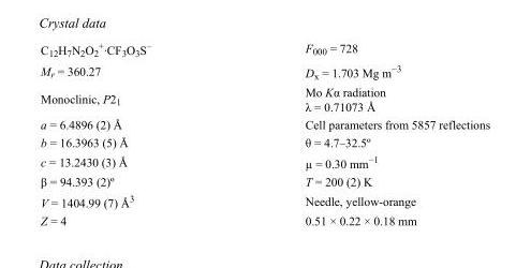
<table><tbody><tr><td>C<sub>12</sub>H<sub>7</sub>N<sub>2</sub>O<sub>2</sub> <sup>+</sup>·CF<sub>3</sub>O<sub>3</sub>S<sup>–</sup></td><td>F<sub>000</sub> = 728</td></tr><tr><td>M<sub>r</sub> = 360.27</td><td>D<sub>x</sub> = 1.703 Mg m<sup>−3</sup></td></tr><tr><td>Monoclinic, P2<sub>1</sub></td><td>Mo Kα radiation λ = 0.71073 Å</td></tr><tr><td>a = 6.4896 (2) Å</td><td>Cell parameters from 5857 reflections</td></tr><tr><td>b = 16.3963 (5) Å</td><td>θ = 4.7–32.5º</td></tr><tr><td>c = 13.2430 (3) Å</td><td>µ = 0.30 mm<sup>−1</sup></td></tr><tr><td>β = 94.393 (2)º</td><td>T = 200 (2) K</td></tr><tr><td>V = 1404.99 (7) Å<sup>3</sup></td><td>Needle, yellow-orange</td></tr><tr><td>Z = 4</td><td>0.51 × 0.22 × 0.18 mm</td></tr></tbody></table>